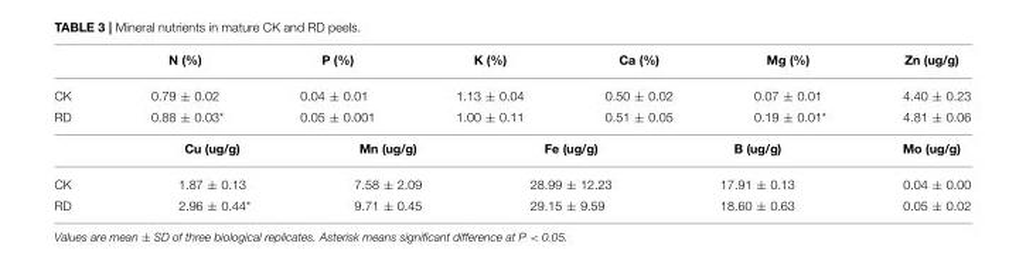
<table><thead><tr><td></td><td>N (%)</td><td>P (%)</td><td>K (%)</td><td>Ca (%)</td><td>Mg (%)</td><td>Zn (ug/g)</td></tr></thead><tbody><tr><td>CK</td><td>0.79 ± 0.02</td><td>0.04 ± 0.01</td><td>1.13 ± 0.04</td><td>0.50 ± 0.02</td><td>0.07 ± 0.01</td><td>4.40 ± 0.23</td></tr><tr><td rowspan="2">RD</td><td>0.88 ± 0.03*</td><td>0.05 ± 0.001</td><td>1.00 ± 0.11</td><td>0.51 ± 0.05</td><td>0.19 ± 0.01*</td><td>4.81 ± 0.06</td></tr><tr><td>Cu (ug/g)</td><td>Mn (ug/g)</td><td colspan="2">Fe (ug/g)</td><td>B (ug/g)</td><td>Mo (ug/g)</td></tr><tr><td>CK</td><td>1.87 ± 0.13</td><td>7.58 ± 2.09</td><td colspan="2">28.99 ± 12.23</td><td>17.91 ± 0.13</td><td>0.04 ± 0.00</td></tr><tr><td>RD</td><td>2.96 ± 0.44*</td><td>9.71 ± 0.45</td><td colspan="2">29.15 ± 9.59</td><td>18.60 ± 0.63</td><td>0.05 ± 0.02</td></tr></tbody></table>